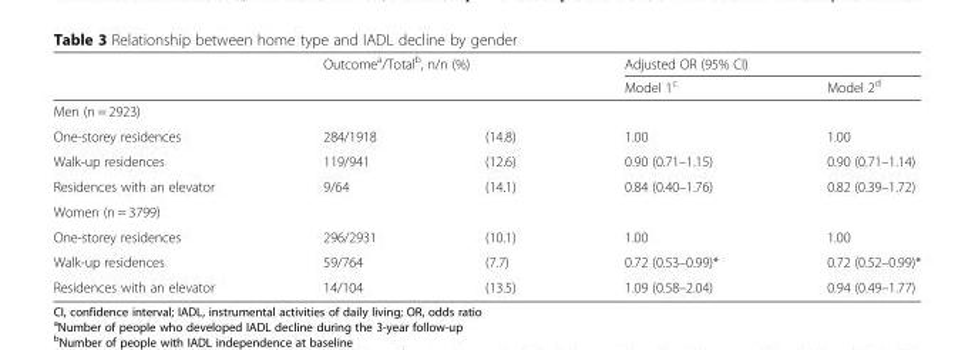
<table><thead><tr><td rowspan="2"></td><td rowspan="2" colspan="2">Outcome<sup>a</sup>/Total<sup>b</sup>, n/n (%)</td><td colspan="2">Adjusted OR (95% CI)</td></tr><tr><td>Model 1<sup>c</sup></td><td>Model 2<sup>d</sup></td></tr><tr><td colspan="5">Men (n = 2923)</td></tr><tr><td>One-storey residences</td><td>284/1918</td><td>(14.8)</td><td>1.00</td><td>1.00</td></tr></thead><tbody><tr><td>Walk-up residences</td><td>119/941</td><td>(12.6)</td><td>0.90 (0.71–1.15)</td><td>0.90 (0.71–1.14)</td></tr><tr><td>Residences with an elevator</td><td>9/64</td><td>(14.1)</td><td>0.84 (0.40–1.76)</td><td>0.82 (0.39–1.72)</td></tr><tr><td colspan="5">Women (n = 3799)</td></tr><tr><td>One-storey residences</td><td>296/2931</td><td>(10.1)</td><td>1.00</td><td>1.00</td></tr><tr><td>Walk-up residences</td><td>59/764</td><td>(7.7)</td><td>0.72 (0.53–0.99)*</td><td>0.72 (0.52–0.99)*</td></tr><tr><td>Residences with an elevator</td><td>14/104</td><td>(13.5)</td><td>1.09 (0.58–2.04)</td><td>0.94 (0.49–1.77)</td></tr></tbody></table>